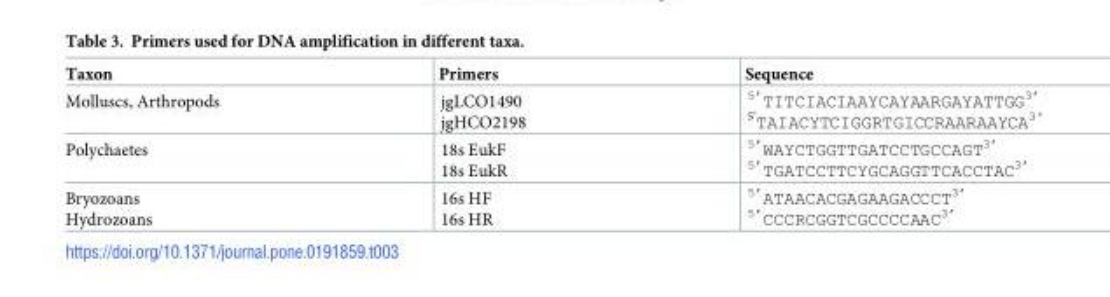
<table><thead><tr><td>Taxon</td><td>Primers</td><td>Sequence</td></tr></thead><tbody><tr><td>Molluscs, Arthropods</td><td>jgLCO1490 jgHCO2198</td><td><sup>5’</sup>TITCIACIAAYCAYAARGAYATTGG<sup>3’ 5’</sup>TAIACYTCIGGRTGICCRAARAAYCA<sup>3&#x27;</sup></td></tr><tr><td>Polychaetes</td><td>18s EukF 18s EukR</td><td><sup>5’</sup>WAYCTGGTTGATCCTGCCAGT<sup>3’ 5’</sup>TGATCCTTCYGCAGGTTCACCTAC<sup>3’</sup></td></tr><tr><td>Bryozoans Hydrozoans</td><td>16s HF 16s HR</td><td><sup>5’</sup>ATAACACGAGAAGACCCT<sup>3’ 5’</sup>CCCRCGGTCGCCCCAAC<sup>3’</sup></td></tr></tbody></table>